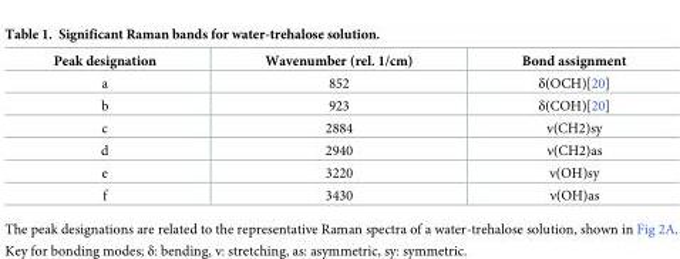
<table><thead><tr><td>Peak designation</td><td>Wavenumber (rel. 1/cm)</td><td>Bond assignment</td></tr></thead><tbody><tr><td>a</td><td>852</td><td>δ(OCH)[20]</td></tr><tr><td>b</td><td>923</td><td>δ(COH)[20]</td></tr><tr><td>c</td><td>2884</td><td>ν(CH2)sy</td></tr><tr><td>d</td><td>2940</td><td>ν(CH2)as</td></tr><tr><td>e</td><td>3220</td><td>ν(OH)sy</td></tr><tr><td>f</td><td>3430</td><td>ν(OH)as</td></tr></tbody></table>